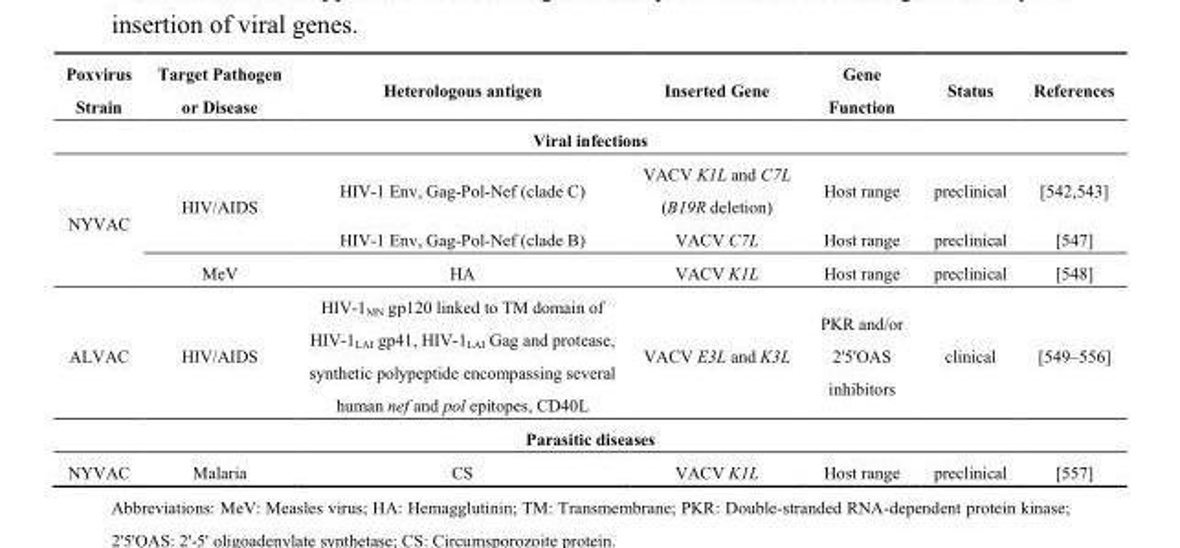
<table><thead><tr><td>Poxvirus Strain</td><td>Target Pathogen or Disease</td><td>Heterologous antigen</td><td>Inserted Gene</td><td>Gene Function</td><td>Status</td><td>References</td></tr></thead><tbody><tr><td colspan="7">Viral infections</td></tr><tr><td rowspan="3">NYVAC</td><td rowspan="2">HIV/AIDS</td><td>HIV-1 Env, Gag-Pol-Nef (clade C)</td><td>VACV K1L and C7L (B19R deletion)</td><td>Host range</td><td>preclinical</td><td>[542,543]</td></tr><tr><td>HIV-1 Env, Gag-Pol-Nef (clade B)</td><td>VACV C7L</td><td>Host range</td><td>preclinical</td><td>[547]</td></tr><tr><td>MeV</td><td>HA</td><td>VACV K1L</td><td>Host range</td><td>preclinical</td><td>[548]</td></tr><tr><td>ALVAC</td><td>HIV/AIDS</td><td>HIV-1<sub>MN</sub> gp120 linked to TM domain of HIV-1<sub>LAI</sub> gp41, HIV-1<sub>LAI</sub> Gag and protease, synthetic polypeptide encompassing several human nef and pol epitopes, CD40L</td><td>VACV E3L and K3L</td><td>PKR and/or 2&#x27;5&#x27;OAS inhibitors</td><td>clinical</td><td>[549–556]</td></tr><tr><td colspan="7">Parasitic diseases</td></tr><tr><td>NYVAC</td><td>Malaria</td><td>CS</td><td>VACV K1L</td><td>Host range</td><td>preclinical</td><td>[557]</td></tr></tbody></table>